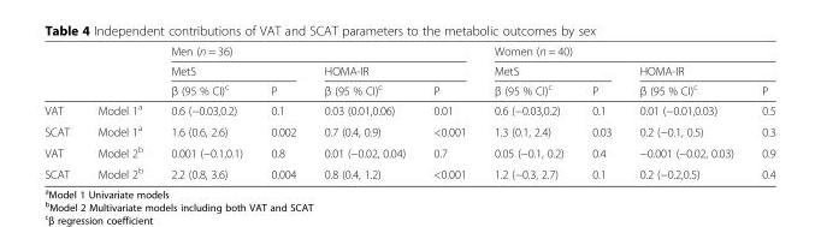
<table><thead><tr><td rowspan="3"></td><td rowspan="3"></td><td colspan="4">Men (n = 36)</td><td colspan="4">Women (n = 40)</td></tr><tr><td colspan="2">MetS</td><td colspan="2">HOMA-IR</td><td colspan="2">MetS</td><td colspan="2">HOMA-IR</td></tr><tr><td>β (95 % CI)<sup>c</sup></td><td>P</td><td>β (95 % CI)<sup>c</sup></td><td>P</td><td>β (95 % CI)<sup>c</sup></td><td>P</td><td>β (95 % CI)<sup>c</sup></td><td>P</td></tr></thead><tbody><tr><td>VAT</td><td>Model 1<sup>a</sup></td><td>0.6 (−0.03,0.2)</td><td>0.1</td><td>0.03 (0.01,0.06)</td><td>0.01</td><td>0.6 (−0.03,0.2)</td><td>0.1</td><td>0.01 (−0.01,0.03)</td><td>0.5</td></tr><tr><td>SCAT</td><td>Model 1<sup>a</sup></td><td>1.6 (0.6, 2.6)</td><td>0.002</td><td>0.7 (0.4, 0.9)</td><td>&lt;0.001</td><td>1.3 (0.1, 2.4)</td><td>0.03</td><td>0.2 (−0.1, 0.5)</td><td>0.3</td></tr><tr><td>VAT</td><td>Model 2<sup>b</sup></td><td>0.001 (−0.1,0.1)</td><td>0.8</td><td>0.01 (−0.02, 0.04)</td><td>0.7</td><td>0.05 (−0.1, 0.2)</td><td>0.4</td><td>−0.001 (−0.02, 0.03)</td><td>0.9</td></tr><tr><td>SCAT</td><td>Model 2<sup>b</sup></td><td>2.2 (0.8, 3.6)</td><td>0.004</td><td>0.8 (0.4, 1.2)</td><td>&lt;0.001</td><td>1.2 (−0.3, 2.7)</td><td>0.1</td><td>0.2 (−0.2,0.5)</td><td>0.4</td></tr></tbody></table>